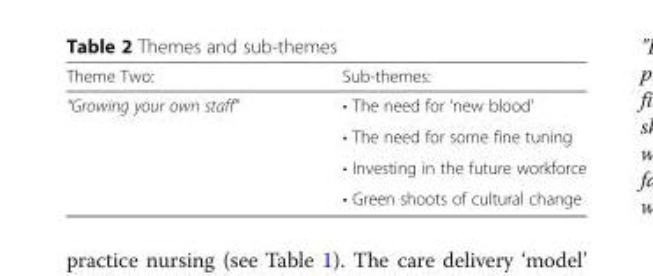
<table><thead><tr><td>Theme Two:</td><td>Sub-themes:</td></tr></thead><tbody><tr><td rowspan="4">“Growing your own staff”</td><td>• The need for ‘new blood’</td></tr><tr><td>• The need for some fine tuning</td></tr><tr><td>• Investing in the future workforce</td></tr><tr><td>• Green shoots of cultural change</td></tr></tbody></table>